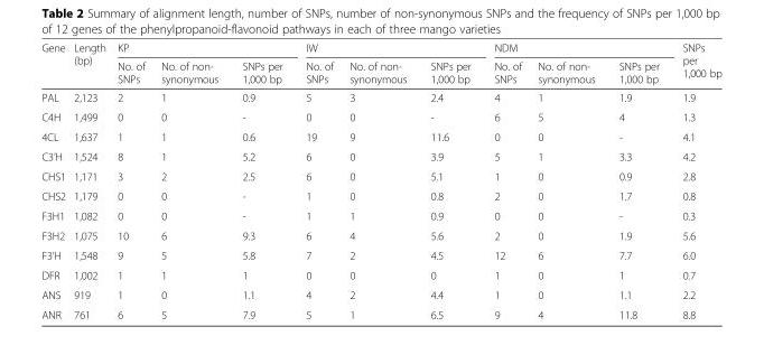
<table><thead><tr><td rowspan="2">Gene</td><td rowspan="2">Length (bp)</td><td colspan="3">KP</td><td colspan="3">IW</td><td colspan="3">NDM</td><td rowspan="2">SNPs per 1,000 bp</td></tr><tr><td>No. of SNPs</td><td>No. of non- synonymous</td><td>SNPs per 1,000 bp</td><td>No. of SNPs</td><td>No. of non- synonymous</td><td>SNPs per 1,000 bp</td><td>No. of SNPs</td><td>No. of non- synonymous</td><td>SNPs per 1,000 bp</td></tr></thead><tbody><tr><td>PAL</td><td>2,123</td><td>2</td><td>1</td><td>0.9</td><td>5</td><td>3</td><td>2.4</td><td>4</td><td>1</td><td>1.9</td><td>1.9</td></tr><tr><td>C4H</td><td>1,499</td><td>0</td><td>0</td><td>-</td><td>0</td><td>0</td><td>-</td><td>6</td><td>5</td><td>4</td><td>1.3</td></tr><tr><td>4CL</td><td>1,637</td><td>1</td><td>1</td><td>0.6</td><td>19</td><td>9</td><td>11.6</td><td>0</td><td>0</td><td>-</td><td>4.1</td></tr><tr><td>C3’H</td><td>1,524</td><td>8</td><td>1</td><td>5.2</td><td>6</td><td>0</td><td>3.9</td><td>5</td><td>1</td><td>3.3</td><td>4.2</td></tr><tr><td>CHS1</td><td>1,171</td><td>3</td><td>2</td><td>2.5</td><td>6</td><td>0</td><td>5.1</td><td>1</td><td>0</td><td>0.9</td><td>2.8</td></tr><tr><td>CHS2</td><td>1,179</td><td>0</td><td>0</td><td>-</td><td>1</td><td>0</td><td>0.8</td><td>2</td><td>0</td><td>1.7</td><td>0.8</td></tr><tr><td>F3H1</td><td>1,082</td><td>0</td><td>0</td><td>-</td><td>1</td><td>1</td><td>0.9</td><td>0</td><td>0</td><td>-</td><td>0.3</td></tr><tr><td>F3H2</td><td>1,075</td><td>10</td><td>6</td><td>9.3</td><td>6</td><td>4</td><td>5.6</td><td>2</td><td>0</td><td>1.9</td><td>5.6</td></tr><tr><td>F3’H</td><td>1,548</td><td>9</td><td>5</td><td>5.8</td><td>7</td><td>2</td><td>4.5</td><td>12</td><td>6</td><td>7.7</td><td>6.0</td></tr><tr><td>DFR</td><td>1,002</td><td>1</td><td>1</td><td>1</td><td>0</td><td>0</td><td>0</td><td>1</td><td>0</td><td>1</td><td>0.7</td></tr><tr><td>ANS</td><td>919</td><td>1</td><td>0</td><td>1.1</td><td>4</td><td>2</td><td>4.4</td><td>1</td><td>0</td><td>1.1</td><td>2.2</td></tr><tr><td>ANR</td><td>761</td><td>6</td><td>5</td><td>7.9</td><td>5</td><td>1</td><td>6.5</td><td>9</td><td>4</td><td>11.8</td><td>8.8</td></tr></tbody></table>